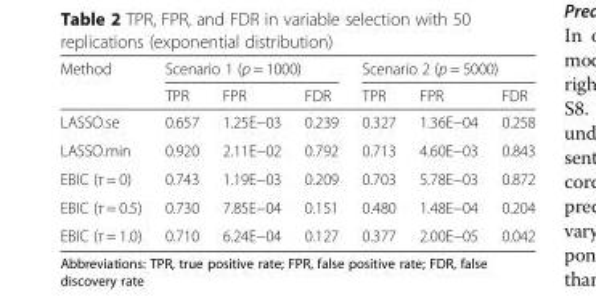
<table><thead><tr><td rowspan="2">Method</td><td colspan="3">Scenario 1 (p = 1000)</td><td colspan="3">Scenario 2 (p = 5000)</td></tr><tr><td>TPR</td><td>FPR</td><td>FDR</td><td>TPR</td><td>FPR</td><td>FDR</td></tr></thead><tbody><tr><td>LASSO.se</td><td>0.657</td><td>1.25E−03</td><td>0.239</td><td>0.327</td><td>1.36E−04</td><td>0.258</td></tr><tr><td>LASSO.min</td><td>0.920</td><td>2.11E−02</td><td>0.792</td><td>0.713</td><td>4.60E−03</td><td>0.843</td></tr><tr><td>EBIC (τ = 0)</td><td>0.743</td><td>1.19E−03</td><td>0.209</td><td>0.703</td><td>5.78E−03</td><td>0.872</td></tr><tr><td>EBIC (τ = 0.5)</td><td>0.730</td><td>7.85E−04</td><td>0.151</td><td>0.480</td><td>1.48E−04</td><td>0.204</td></tr><tr><td>EBIC (τ = 1.0)</td><td>0.710</td><td>6.24E−04</td><td>0.127</td><td>0.377</td><td>2.00E−05</td><td>0.042</td></tr></tbody></table>